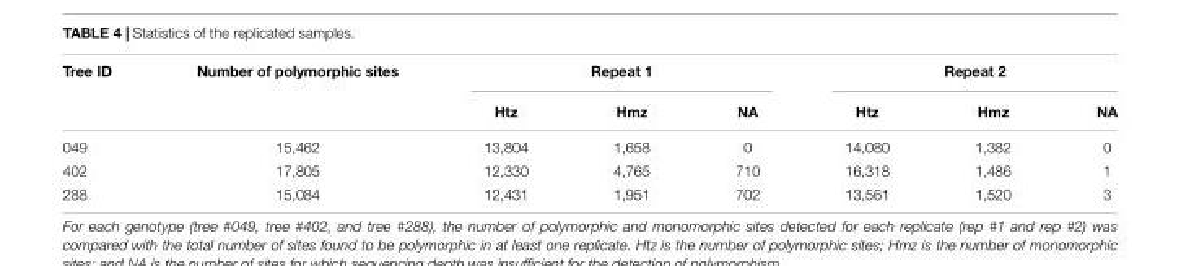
<table><thead><tr><td rowspan="2">Tree ID</td><td rowspan="2">Number of polymorphic sites</td><td colspan="3">Repeat 1</td><td colspan="3">Repeat 2</td></tr><tr><td>Htz</td><td>Hmz</td><td>NA</td><td>Htz</td><td>Hmz</td><td>NA</td></tr></thead><tbody><tr><td>049</td><td>15,462</td><td>13,804</td><td>1,658</td><td>0</td><td>14,080</td><td>1,382</td><td>0</td></tr><tr><td>402</td><td>17,805</td><td>12,330</td><td>4,765</td><td>710</td><td>16,318</td><td>1,486</td><td>1</td></tr><tr><td>288</td><td>15,084</td><td>12,431</td><td>1,951</td><td>702</td><td>13,561</td><td>1,520</td><td>3</td></tr></tbody></table>